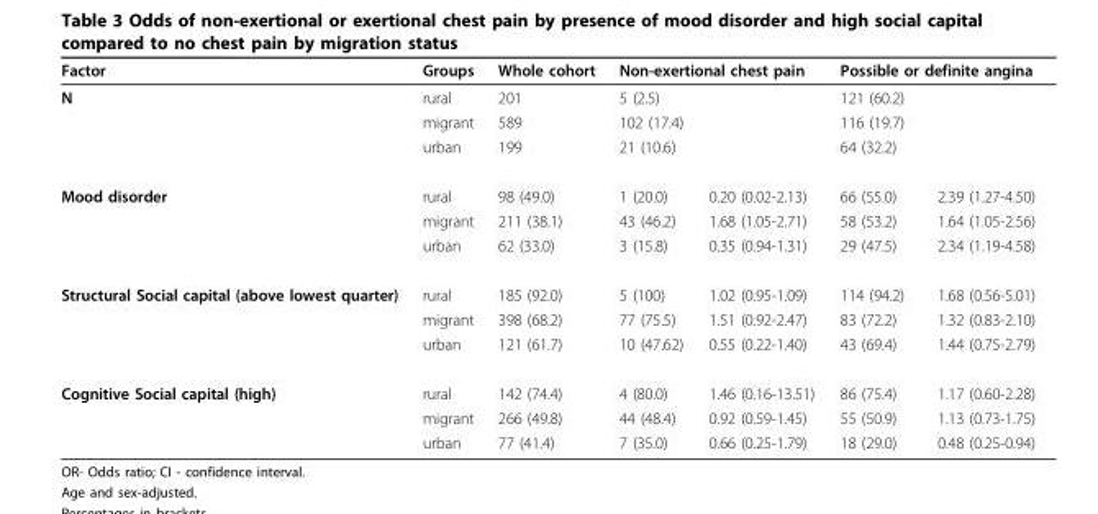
<table><thead><tr><td rowspan="2">Factor N</td><td rowspan="2">Groups rural</td><td rowspan="2">Whole cohort 201</td><td colspan="2">Non-exertional chest pain</td><td colspan="2">Possible or definite angina</td></tr><tr><td>5 (2.5)</td><td></td><td>121 (60.2)</td><td></td></tr></thead><tbody><tr><td></td><td>migrant</td><td>589</td><td>102 (17.4)</td><td></td><td>116 (19.7)</td><td></td></tr><tr><td></td><td>urban</td><td>199</td><td>21 (10.6)</td><td></td><td>64 (32.2)</td><td></td></tr><tr><td rowspan="3">Mood disorder</td><td>rural</td><td>98 (49.0)</td><td>1 (20.0)</td><td>0.20 (0.02-2.13)</td><td>66 (55.0)</td><td>2.39 (1.27-4.50)</td></tr><tr><td>migrant</td><td>211 (38.1)</td><td>43 (46.2)</td><td>1.68 (1.05-2.71)</td><td>58 (53.2)</td><td>1.64 (1.05-2.56)</td></tr><tr><td>urban</td><td>62 (33.0)</td><td>3 (15.8)</td><td>0.35 (0.94-1.31)</td><td>29 (47.5)</td><td>2.34 (1.19-4.58)</td></tr><tr><td rowspan="3">Structural Social capital (above lowest quarter)</td><td>rural</td><td>185 (92.0)</td><td>5 (100)</td><td>1.02 (0.95-1.09)</td><td>114 (94.2)</td><td>1.68 (0.56-5.01)</td></tr><tr><td>migrant</td><td>398 (68.2)</td><td>77 (75.5)</td><td>1.51 (0.92-2.47)</td><td>83 (72.2)</td><td>1.32 (0.83-2.10)</td></tr><tr><td>urban</td><td>121 (61.7)</td><td>10 (47.62)</td><td>0.55 (0.22-1.40)</td><td>43 (69.4)</td><td>1.44 (0.75-2.79)</td></tr><tr><td rowspan="3">Cognitive Social capital (high)</td><td>rural</td><td>142 (74.4)</td><td>4 (80.0)</td><td>1.46 (0.16-13.51)</td><td>86 (75.4)</td><td>1.17 (0.60-2.28)</td></tr><tr><td>migrant</td><td>266 (49.8)</td><td>44 (48.4)</td><td>0.92 (0.59-1.45)</td><td>55 (50.9)</td><td>1.13 (0.73-1.75)</td></tr><tr><td>urban</td><td>77 (41.4)</td><td>7 (35.0)</td><td>0.66 (0.25-1.79)</td><td>18 (29.0)</td><td>0.48 (0.25-0.94)</td></tr></tbody></table>